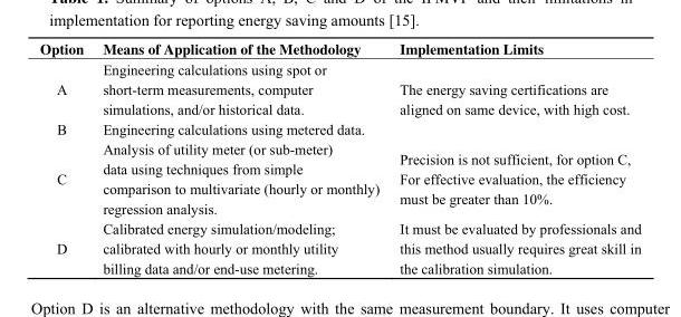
<table><thead><tr><td>Option</td><td>Means of Application of the Methodology</td><td>Implementation Limits</td></tr></thead><tbody><tr><td>A</td><td>Engineering calculations using spot or short-term measurements, computer simulations, and/or historical data.</td><td rowspan="2">The energy saving certifications are aligned on same device, with high cost.</td></tr><tr><td>B</td><td>Engineering calculations using metered data.</td></tr><tr><td>C</td><td>Analysis of utility meter (or sub-meter) data using techniques from simple comparison to multivariate (hourly or monthly) regression analysis.</td><td>Precision is not sufficient, for option C, For effective evaluation, the efficiency must be greater than 10%.</td></tr><tr><td>D</td><td>Calibrated energy simulation/modeling; calibrated with hourly or monthly utility billing data and/or end-use metering.</td><td>It must be evaluated by professionals and this method usually requires great skill in the calibration simulation.</td></tr></tbody></table>